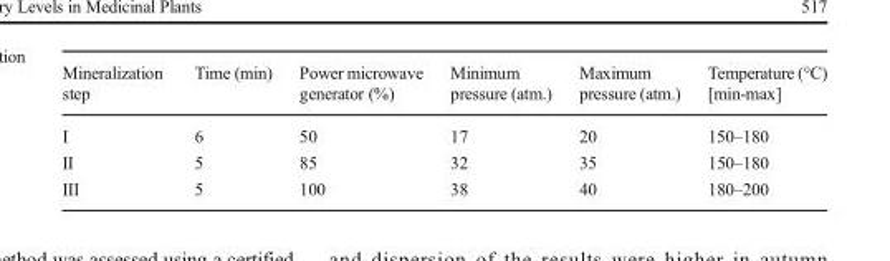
<table><thead><tr><td>Mineralization step</td><td>Time (min)</td><td>Power microwave generator (%)</td><td>Minimum pressure (atm.)</td><td>Maximum pressure (atm.)</td><td>Temperature (°C) [min-max]</td></tr></thead><tbody><tr><td>I</td><td>6</td><td>50</td><td>17</td><td>20</td><td>150–180</td></tr><tr><td>II</td><td>5</td><td>85</td><td>32</td><td>35</td><td>150–180</td></tr><tr><td>III</td><td>5</td><td>100</td><td>38</td><td>40</td><td>180–200</td></tr></tbody></table>